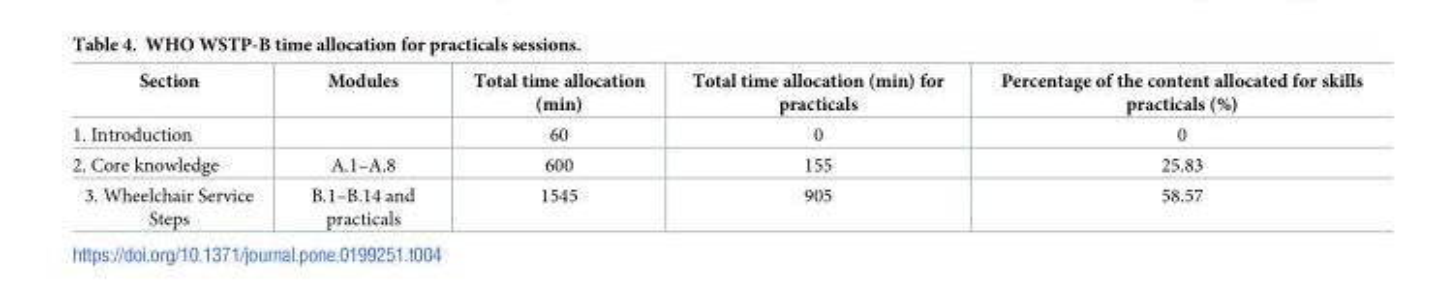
<table><thead><tr><td>Section</td><td>Modules</td><td>Total time allocation (min)</td><td>Total time allocation (min) for practicals</td><td>Percentage of the content allocated for skills practicals (%)</td></tr></thead><tbody><tr><td>1. Introduction</td><td></td><td>60</td><td>0</td><td>0</td></tr><tr><td>2. Core knowledge</td><td>A.1–A.8</td><td>600</td><td>155</td><td>25.83</td></tr><tr><td>3. Wheelchair Service Steps</td><td>B.1–B.14 and practicals</td><td>1545</td><td>905</td><td>58.57</td></tr></tbody></table>